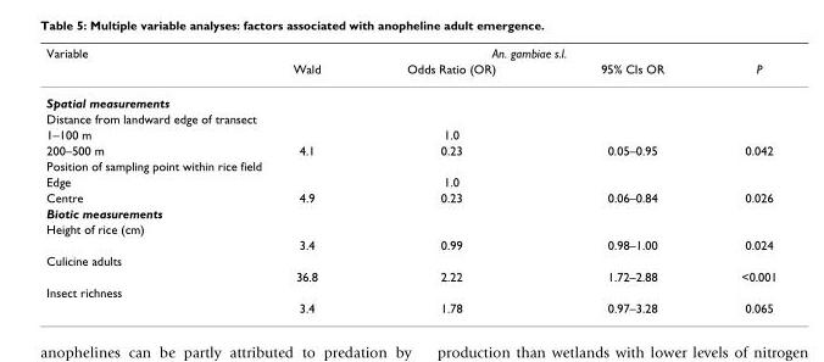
<table><thead><tr><td rowspan="2">Variable</td><td rowspan="2">Wald</td><td colspan="2">An. gambiae s.l.</td><td rowspan="2">P</td></tr><tr><td>Odds Ratio (OR)</td><td>95% CIs OR</td></tr></thead><tbody><tr><td colspan="5">Spatial measurements</td></tr><tr><td colspan="5">Distance from landward edge of transect</td></tr><tr><td>1–100 m</td><td></td><td>1.0</td><td></td><td></td></tr><tr><td>200–500 m</td><td>4.1</td><td>0.23</td><td>0.05–0.95</td><td>0.042</td></tr><tr><td colspan="5">Position of sampling point within rice field</td></tr><tr><td>Edge</td><td></td><td>1.0</td><td></td><td></td></tr><tr><td>Centre</td><td>4.9</td><td>0.23</td><td>0.06–0.84</td><td>0.026</td></tr><tr><td colspan="5">Biotic measurements</td></tr><tr><td colspan="5">Height of rice (cm)</td></tr><tr><td></td><td>3.4</td><td>0.99</td><td>0.98–1.00</td><td>0.024</td></tr><tr><td colspan="5">Culicine adults</td></tr><tr><td></td><td>36.8</td><td>2.22</td><td>1.72–2.88</td><td>&lt;0.001</td></tr><tr><td colspan="5">Insect richness</td></tr><tr><td></td><td>3.4</td><td>1.78</td><td>0.97–3.28</td><td>0.065</td></tr></tbody></table>